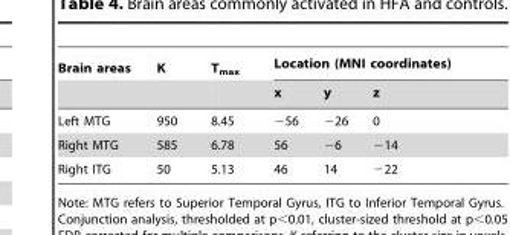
<table><thead><tr><td rowspan="2">Brain areas</td><td rowspan="2">K</td><td rowspan="2">T<sub>max</sub></td><td colspan="3">Location (MNI coordinates)</td></tr><tr><td>x</td><td>y</td><td>z</td></tr></thead><tbody><tr><td>Left MTG</td><td>950</td><td>8.45</td><td>−56</td><td>−26</td><td>0</td></tr><tr><td>Right MTG</td><td>585</td><td>6.78</td><td>56</td><td>−6</td><td>−14</td></tr><tr><td>Right ITG</td><td>50</td><td>5.13</td><td>46</td><td>14</td><td>−22</td></tr></tbody></table>